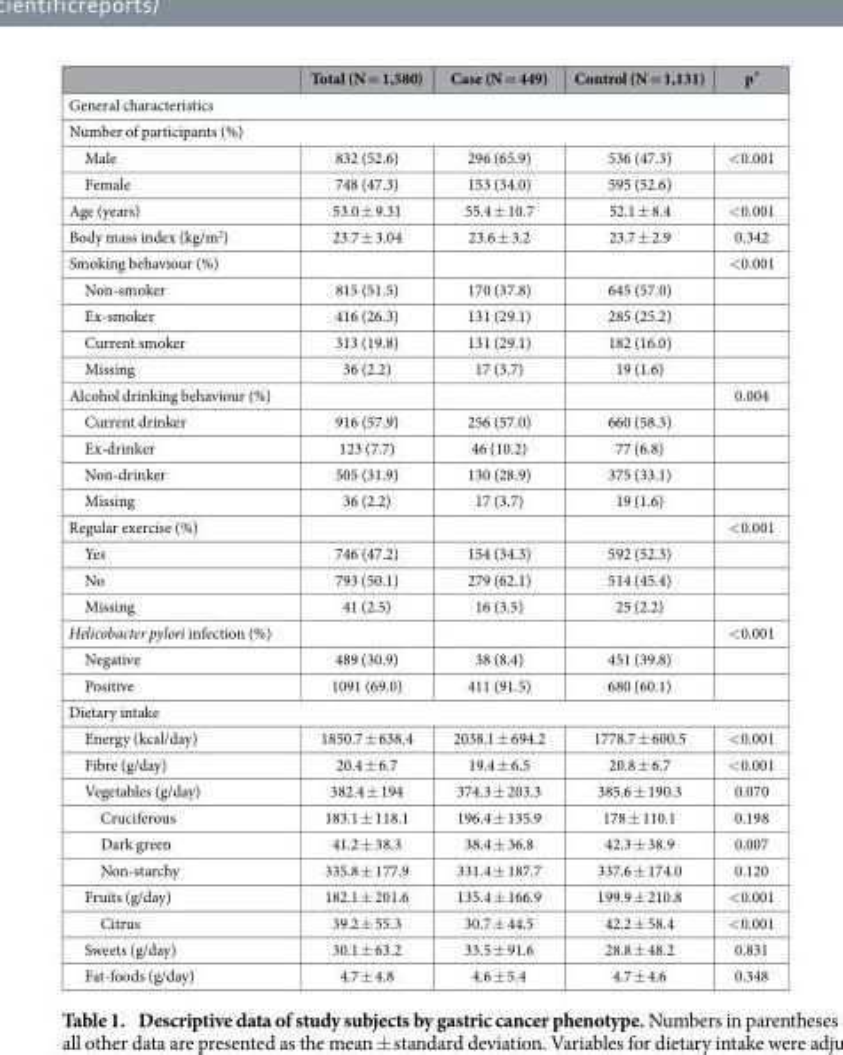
<table><thead><tr><td></td><td>Total (N = 1,580)</td><td>Case (N = 449)</td><td>Control (N = 1,131)</td><td>p*</td></tr></thead><tbody><tr><td colspan="5">General characteristics</td></tr><tr><td colspan="5">Number of participants (%)</td></tr><tr><td>Male</td><td>832 (52.6)</td><td>296 (65.9)</td><td>536 (47.3)</td><td>&lt; 0.001</td></tr><tr><td>Female</td><td>748 (47.3)</td><td>153 (34.0)</td><td>595 (52.6)</td><td></td></tr><tr><td>Age (years)</td><td>53.0 ± 9.31</td><td>55.4 ± 10.7</td><td>52.1 ± 8.4</td><td>&lt; 0.001</td></tr><tr><td>Body mass index (kg/m<sup>2</sup>)</td><td>23.7 ± 3.04</td><td>23.6 ± 3.2</td><td>23.7 ± 2.9</td><td>0.342</td></tr><tr><td>Smoking behaviour (%)</td><td></td><td></td><td></td><td>&lt; 0.001</td></tr><tr><td>Non-smoker</td><td>815 (51.5)</td><td>170 (37.8)</td><td>645 (57.0)</td><td></td></tr><tr><td>Ex-smoker</td><td>416 (26.3)</td><td>131 (29.1)</td><td>285 (25.2)</td><td></td></tr><tr><td>Current smoker</td><td>313 (19.8)</td><td>131 (29.1)</td><td>182 (16.0)</td><td></td></tr><tr><td>Missing</td><td>36 (2.2)</td><td>17 (3.7)</td><td>19 (1.6)</td><td></td></tr><tr><td>Alcohol drinking behaviour (%)</td><td></td><td></td><td></td><td>0.004</td></tr><tr><td>Current drinker</td><td>916 (57.9)</td><td>256 (57.0)</td><td>660 (58.3)</td><td></td></tr><tr><td>Ex-drinker</td><td>123 (7.7)</td><td>46 (10.2)</td><td>77 (6.8)</td><td></td></tr><tr><td>Non-drinker</td><td>505 (31.9)</td><td>130 (28.9)</td><td>375 (33.1)</td><td></td></tr><tr><td>Missing</td><td>36 (2.2)</td><td>17 (3.7)</td><td>19 (1.6)</td><td></td></tr><tr><td>Regular exercise (%)</td><td></td><td></td><td></td><td>&lt; 0.001</td></tr><tr><td>Yes</td><td>746 (47.2)</td><td>154 (34.3)</td><td>592 (52.3)</td><td></td></tr><tr><td>No</td><td>793 (50.1)</td><td>279 (62.1)</td><td>514 (45.4)</td><td></td></tr><tr><td>Missing</td><td>41 (2.5)</td><td>16 (3.5)</td><td>25 (2.2)</td><td></td></tr><tr><td>Helicobacter pylori infection (%)</td><td></td><td></td><td></td><td>&lt; 0.001</td></tr><tr><td>Negative</td><td>489 (30.9)</td><td>38 (8.4)</td><td>451 (39.8)</td><td></td></tr><tr><td>Positive</td><td>1091 (69.0)</td><td>411 (91.5)</td><td>680 (60.1)</td><td></td></tr><tr><td colspan="5">Dietary intake</td></tr><tr><td>Energy (kcal/day)</td><td>1850.7 ± 638.4</td><td>2038.1 ± 694.2</td><td>1778.7 ± 600.5</td><td>&lt; 0.001</td></tr><tr><td>Fibre (g/day)</td><td>20.4 ± 6.7</td><td>19.4 ± 6.5</td><td>20.8 ± 6.7</td><td>&lt; 0.001</td></tr><tr><td>Vegetables (g/day)</td><td>382.4 ± 194</td><td>374.3 ± 203.3</td><td>385.6 ± 190.3</td><td>0.070</td></tr><tr><td>Cruciferous</td><td>183.1 ± 118.1</td><td>196.4 ± 135.9</td><td>178 ± 110.1</td><td>0.198</td></tr><tr><td>Dark green</td><td>41.2 ± 38.3</td><td>38.4 ± 36.8</td><td>42.3 ± 38.9</td><td>0.007</td></tr><tr><td>Non-starchy</td><td>335.8 ± 177.9</td><td>331.4 ± 187.7</td><td>337.6 ± 174.0</td><td>0.120</td></tr><tr><td>Fruits (g/day)</td><td>182.1 ± 201.6</td><td>135.4 ± 166.9</td><td>199.9 ± 210.8</td><td>&lt; 0.001</td></tr><tr><td>Citrus</td><td>39.2 ± 55.3</td><td>30.7 ± 44.5</td><td>42.2 ± 58.4</td><td>&lt; 0.001</td></tr><tr><td>Sweets (g/day)</td><td>30.1 ± 63.2</td><td>33.5 ± 91.6</td><td>28.8 ± 48.2</td><td>0.831</td></tr><tr><td>Fat-foods (g/day)</td><td>4.7 ± 4.8</td><td>4.6 ± 5.4</td><td>4.7 ± 4.6</td><td>0.348</td></tr></tbody></table>